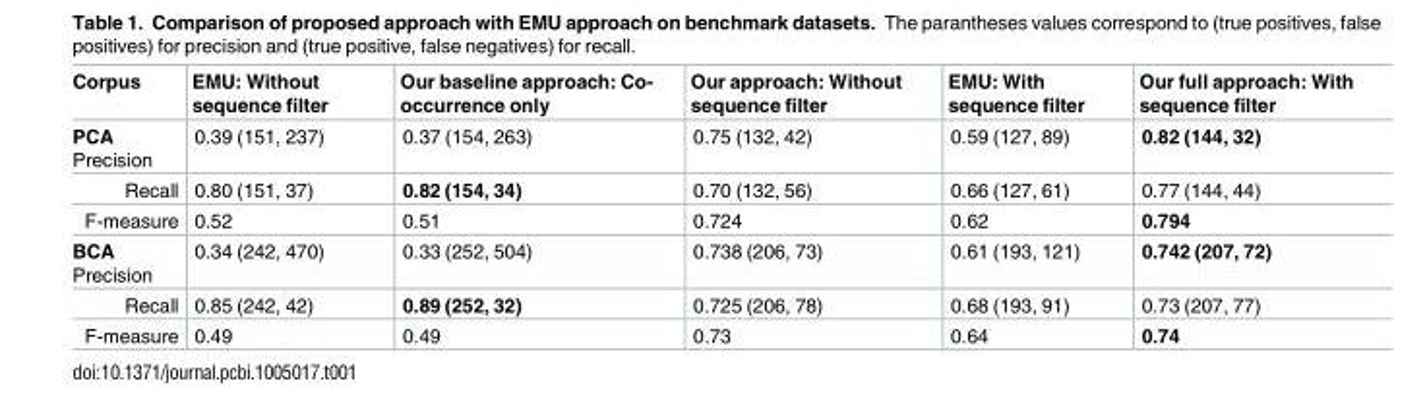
<table><thead><tr><td>Corpus</td><td>EMU: Without sequence filter</td><td>Our baseline approach: Co- occurrence only</td><td>Our approach: Without sequence filter</td><td>EMU: With sequence filter</td><td>Our full approach: With sequence filter</td></tr></thead><tbody><tr><td>PCA Precision</td><td>0.39 (151, 237)</td><td>0.37 (154, 263)</td><td>0.75 (132, 42)</td><td>0.59 (127, 89)</td><td>0.82 (144, 32)</td></tr><tr><td>Recall</td><td>0.80 (151, 37)</td><td>0.82 (154, 34)</td><td>0.70 (132, 56)</td><td>0.66 (127, 61)</td><td>0.77 (144, 44)</td></tr><tr><td>F-measure</td><td>0.52</td><td>0.51</td><td>0.724</td><td>0.62</td><td>0.794</td></tr><tr><td>BCA Precision</td><td>0.34 (242, 470)</td><td>0.33 (252, 504)</td><td>0.738 (206, 73)</td><td>0.61 (193, 121)</td><td>0.742 (207, 72)</td></tr><tr><td>Recall</td><td>0.85 (242, 42)</td><td>0.89 (252, 32)</td><td>0.725 (206, 78)</td><td>0.68 (193, 91)</td><td>0.73 (207, 77)</td></tr><tr><td>F-measure</td><td>0.49</td><td>0.49</td><td>0.73</td><td>0.64</td><td>0.74</td></tr></tbody></table>